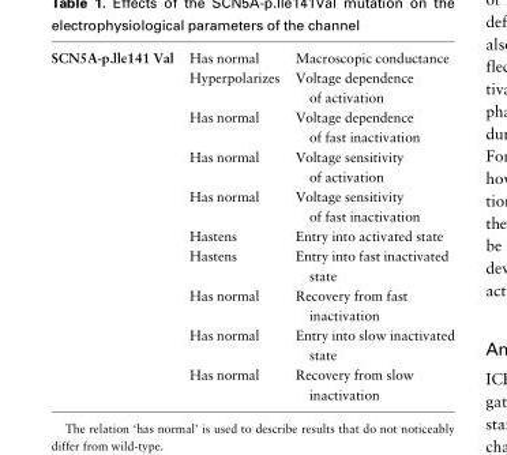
<table><tbody><tr><td rowspan="10">SCN5A-p.lle141 Val</td><td>Has normal</td><td>Macroscopic conductance</td></tr><tr><td>Hyperpolarizes</td><td>Voltage dependence of activation</td></tr><tr><td>Has normal</td><td>Voltage dependence of fast inactivation</td></tr><tr><td>Has normal</td><td>Voltage sensitivity of activation</td></tr><tr><td>Has normal</td><td>Voltage sensitivity of fast inactivation</td></tr><tr><td>Hastens</td><td>Entry into activated state</td></tr><tr><td>Hastens</td><td>Entry into fast inactivated state</td></tr><tr><td>Has normal</td><td>Recovery from fast inactivation</td></tr><tr><td>Has normal</td><td>Entry into slow inactivated state</td></tr><tr><td>Has normal</td><td>Recovery from slow inactivation</td></tr></tbody></table>